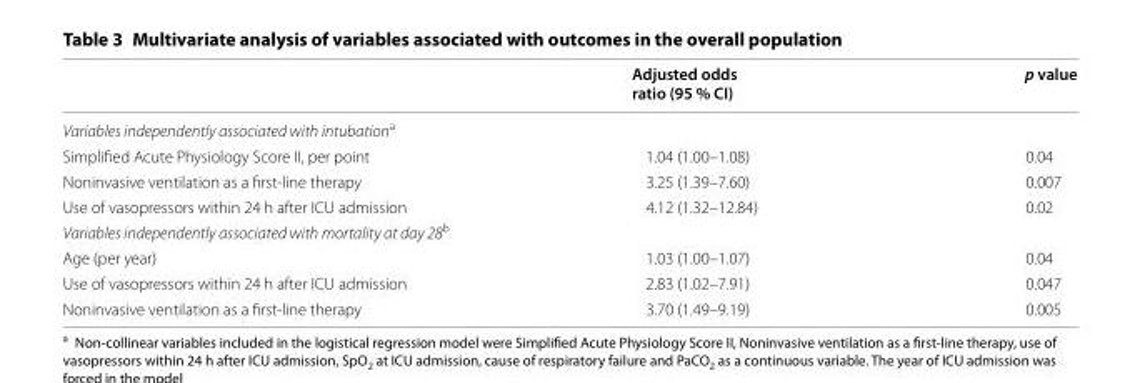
<table><thead><tr><td></td><td>Adjusted odds ratio (95 % CI)</td><td>p value</td></tr></thead><tbody><tr><td colspan="3">Variables independently associated with intubation<sup>a</sup></td></tr><tr><td>Simplified Acute Physiology Score II, per point</td><td>1.04 (1.00–1.08)</td><td>0.04</td></tr><tr><td>Noninvasive ventilation as a first‑line therapy</td><td>3.25 (1.39–7.60)</td><td>0.007</td></tr><tr><td>Use of vasopressors within 24 h after ICU admission</td><td>4.12 (1.32–12.84)</td><td>0.02</td></tr><tr><td colspan="3">Variables independently associated with mortality at day 28<sup>b</sup></td></tr><tr><td>Age (per year)</td><td>1.03 (1.00–1.07)</td><td>0.04</td></tr><tr><td>Use of vasopressors within 24 h after ICU admission</td><td>2.83 (1.02–7.91)</td><td>0.047</td></tr><tr><td>Noninvasive ventilation as a first‑line therapy</td><td>3.70 (1.49–9.19)</td><td>0.005</td></tr></tbody></table>